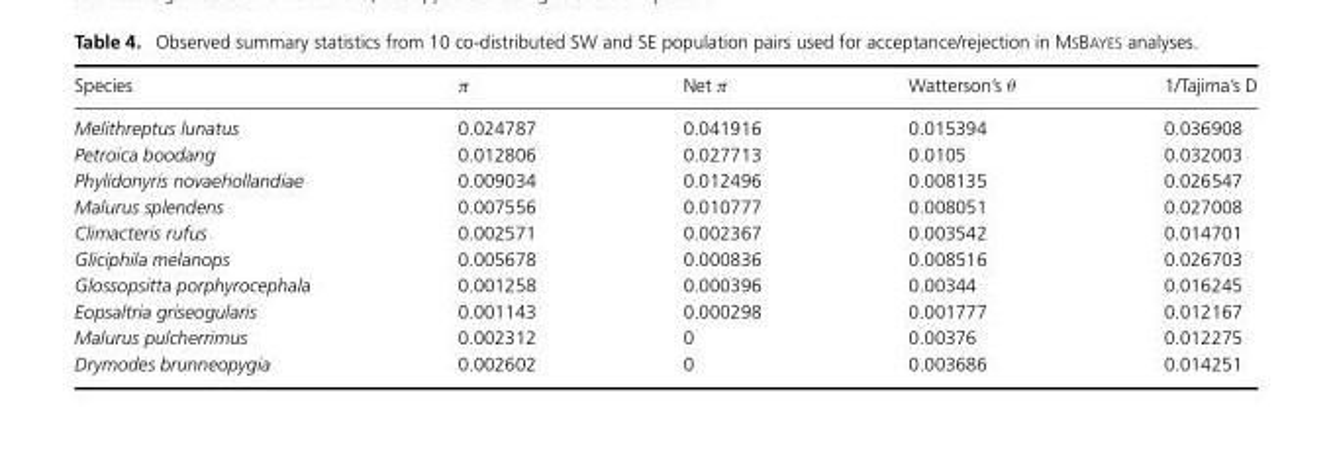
<table><thead><tr><td>Species</td><td>π</td><td>Net π</td><td>Watterson’s θ</td><td>1/Tajima’s D</td></tr></thead><tbody><tr><td>Melithreptus lunatus</td><td>0.024787</td><td>0.041916</td><td>0.015394</td><td>0.036908</td></tr><tr><td>Petroica boodang</td><td>0.012806</td><td>0.027713</td><td>0.0105</td><td>0.032003</td></tr><tr><td>Phylidonyris novaehollandiae</td><td>0.009034</td><td>0.012496</td><td>0.008135</td><td>0.026547</td></tr><tr><td>Malurus splendens</td><td>0.007556</td><td>0.010777</td><td>0.008051</td><td>0.027008</td></tr><tr><td>Climacteris rufus</td><td>0.002571</td><td>0.002367</td><td>0.003542</td><td>0.014701</td></tr><tr><td>Gliciphila melanops</td><td>0.005678</td><td>0.000836</td><td>0.008516</td><td>0.026703</td></tr><tr><td>Glossopsitta porphyrocephala</td><td>0.001258</td><td>0.000396</td><td>0.00344</td><td>0.016245</td></tr><tr><td>Eopsaltria griseogularis</td><td>0.001143</td><td>0.000298</td><td>0.001777</td><td>0.012167</td></tr><tr><td>Malurus pulcherrimus</td><td>0.002312</td><td>0</td><td>0.00376</td><td>0.012275</td></tr><tr><td>Drymodes brunneopygia</td><td>0.002602</td><td>0</td><td>0.003686</td><td>0.014251</td></tr></tbody></table>